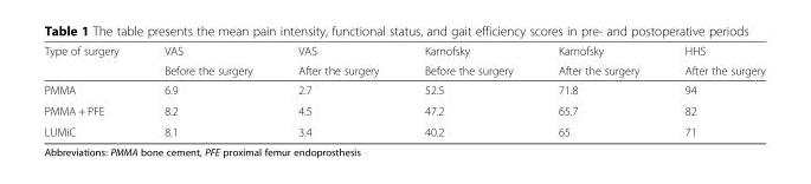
<table><thead><tr><td rowspan="2">Type of surgery</td><td rowspan="2">VAS Before the surgery</td><td rowspan="2">VAS After the surgery</td><td rowspan="2">Karnofsky Before the surgery</td><td rowspan="2">Karnofsky After the surgery</td><td rowspan="2">HHS After the surgery</td></tr><tr></tr></thead><tbody><tr><td>PMMA</td><td>6.9</td><td>2.7</td><td>52.5</td><td>71.8</td><td>94</td></tr><tr><td>PMMA + PFE</td><td>8.2</td><td>4.5</td><td>47.2</td><td>65.7</td><td>82</td></tr><tr><td>LUMiC</td><td>8.1</td><td>3.4</td><td>40.2</td><td>65</td><td>71</td></tr></tbody></table>